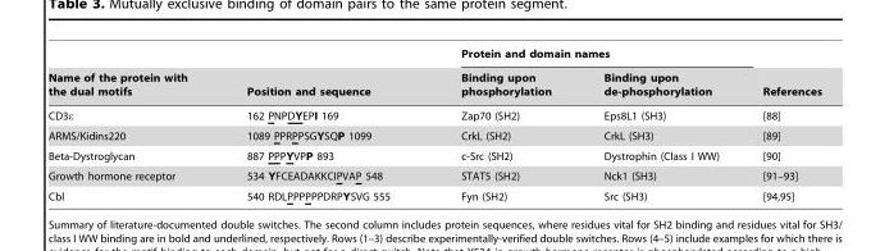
<table><thead><tr><td rowspan="2">Name of the protein with the dual motifs</td><td rowspan="2">Position and sequence</td><td colspan="2">Protein and domain names</td><td rowspan="2">References</td></tr><tr><td>Binding upon phosphorylation</td><td>Binding upon de-phosphorylation</td></tr></thead><tbody><tr><td>CD3ε</td><td>162 PNPDYEPI 169</td><td>Zap70 (SH2)</td><td>Eps8L1 (SH3)</td><td>[88]</td></tr><tr><td>ARMS/Kidins220</td><td>1089 PPRPPSGYSQP 1099</td><td>CrkL (SH2)</td><td>CrkL (SH3)</td><td>[89]</td></tr><tr><td>Beta-Dystroglycan</td><td>887 PPPYVPP 893</td><td>c-Src (SH2)</td><td>Dystrophin (Class I WW)</td><td>[90]</td></tr><tr><td>Growth hormone receptor</td><td>534 YFCEADAKKCIPVAP 548</td><td>STAT5 (SH2)</td><td>Nck1 (SH3)</td><td>[91–93]</td></tr><tr><td>Cbl</td><td>540 RDLPPPPPPDRPYSVG 555</td><td>Fyn (SH2)</td><td>Src (SH3)</td><td>[94,95]</td></tr></tbody></table>